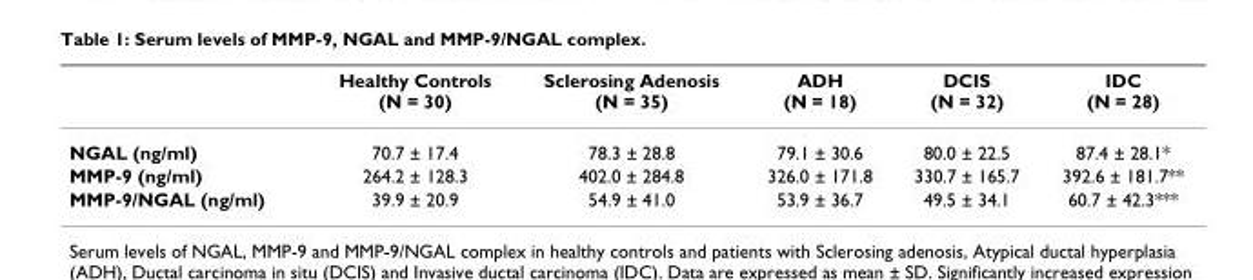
<table><thead><tr><td></td><td>Healthy Controls (N = 30)</td><td>Sclerosing Adenosis (N = 35)</td><td>ADH (N = 18)</td><td>DCIS (N = 32)</td><td>IDC (N = 28)</td></tr></thead><tbody><tr><td>NGAL (ng/ml)</td><td>70.7 ± 17.4</td><td>78.3 ± 28.8</td><td>79.1 ± 30.6</td><td>80.0 ± 22.5</td><td>87.4 ± 28.1*</td></tr><tr><td>MMP-9 (ng/ml)</td><td>264.2 ± 128.3</td><td>402.0 ± 284.8</td><td>326.0 ± 171.8</td><td>330.7 ± 165.7</td><td>392.6 ± 181.7**</td></tr><tr><td>MMP-9/NGAL (ng/ml)</td><td>39.9 ± 20.9</td><td>54.9 ± 41.0</td><td>53.9 ± 36.7</td><td>49.5 ± 34.1</td><td>60.7 ± 42.3***</td></tr></tbody></table>